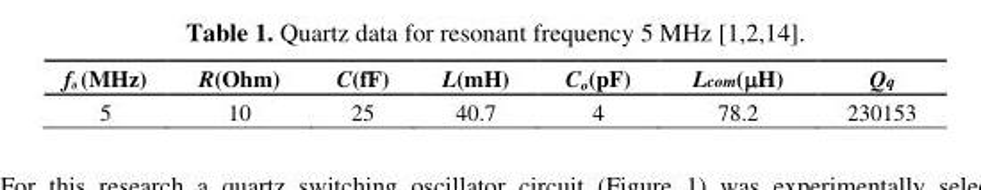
<table><thead><tr><td>f<sub>0</sub> (MHz)</td><td>R(Ohm)</td><td>C(fF)</td><td>L(mH)</td><td>C<sub>o</sub>(pF)</td><td>L<sub>com</sub>(μH)</td><td>Q<sub>q</sub></td></tr></thead><tbody><tr><td>5</td><td>10</td><td>25</td><td>40.7</td><td>4</td><td>78.2</td><td>230153</td></tr></tbody></table>